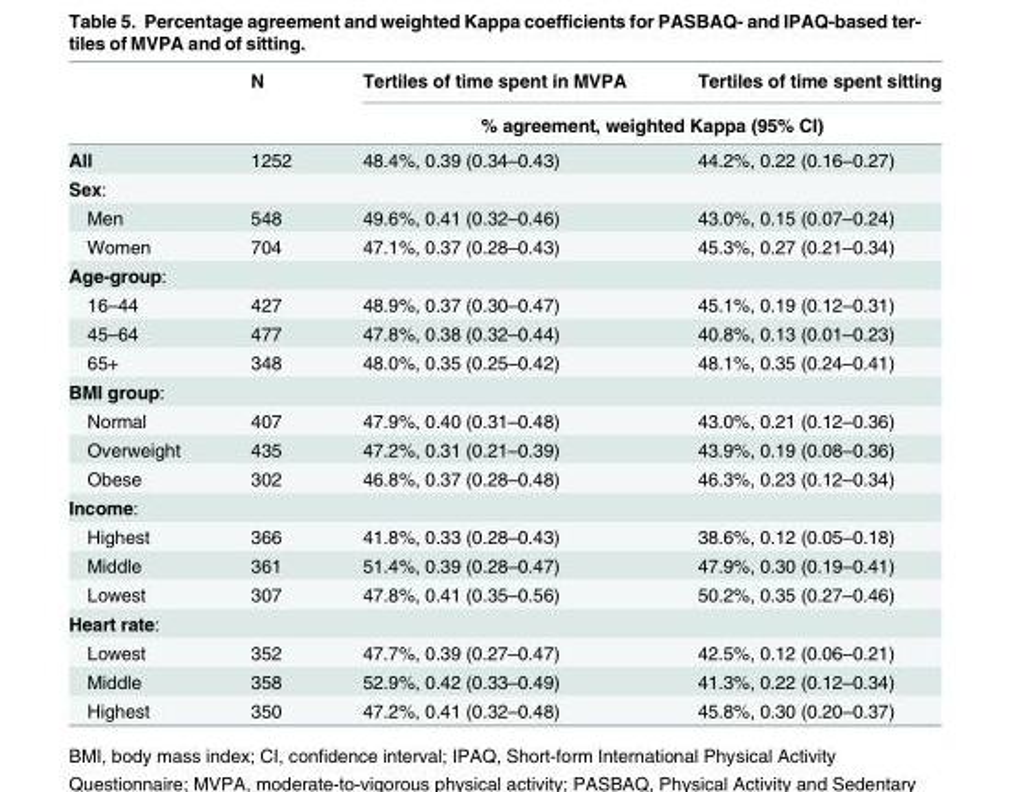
<table><thead><tr><td rowspan="2"></td><td rowspan="2">N</td><td>Tertiles of time spent in MVPA</td><td>Tertiles of time spent sitting</td></tr><tr><td colspan="2">% agreement, weighted Kappa (95% CI)</td></tr></thead><tbody><tr><td>All</td><td>1252</td><td>48.4%, 0.39 (0.34–0.43)</td><td>44.2%, 0.22 (0.16–0.27)</td></tr><tr><td colspan="4">Sex:</td></tr><tr><td>Men</td><td>548</td><td>49.6%, 0.41 (0.32–0.46)</td><td>43.0%, 0.15 (0.07–0.24)</td></tr><tr><td>Women</td><td>704</td><td>47.1%, 0.37 (0.28–0.43)</td><td>45.3%, 0.27 (0.21–0.34)</td></tr><tr><td colspan="4">Age-group:</td></tr><tr><td>16–44</td><td>427</td><td>48.9%, 0.37 (0.30–0.47)</td><td>45.1%, 0.19 (0.12–0.31)</td></tr><tr><td>45–64</td><td>477</td><td>47.8%, 0.38 (0.32–0.44)</td><td>40.8%, 0.13 (0.01–0.23)</td></tr><tr><td>65+</td><td>348</td><td>48.0%, 0.35 (0.25–0.42)</td><td>48.1%, 0.35 (0.24–0.41)</td></tr><tr><td colspan="4">BMI group:</td></tr><tr><td>Normal</td><td>407</td><td>47.9%, 0.40 (0.31–0.48)</td><td>43.0%, 0.21 (0.12–0.36)</td></tr><tr><td>Overweight</td><td>435</td><td>47.2%, 0.31 (0.21–0.39)</td><td>43.9%, 0.19 (0.08–0.36)</td></tr><tr><td>Obese</td><td>302</td><td>46.8%, 0.37 (0.28–0.48)</td><td>46.3%, 0.23 (0.12–0.34)</td></tr><tr><td colspan="4">Income:</td></tr><tr><td>Highest</td><td>366</td><td>41.8%, 0.33 (0.28–0.43)</td><td>38.6%, 0.12 (0.05–0.18)</td></tr><tr><td>Middle</td><td>361</td><td>51.4%, 0.39 (0.28–0.47)</td><td>47.9%, 0.30 (0.19–0.41)</td></tr><tr><td>Lowest</td><td>307</td><td>47.8%, 0.41 (0.35–0.56)</td><td>50.2%, 0.35 (0.27–0.46)</td></tr><tr><td colspan="4">Heart rate:</td></tr><tr><td>Lowest</td><td>352</td><td>47.7%, 0.39 (0.27–0.47)</td><td>42.5%, 0.12 (0.06–0.21)</td></tr><tr><td>Middle</td><td>358</td><td>52.9%, 0.42 (0.33–0.49)</td><td>41.3%, 0.22 (0.12–0.34)</td></tr><tr><td>Highest</td><td>350</td><td>47.2%, 0.41 (0.32–0.48)</td><td>45.8%, 0.30 (0.20–0.37)</td></tr></tbody></table>